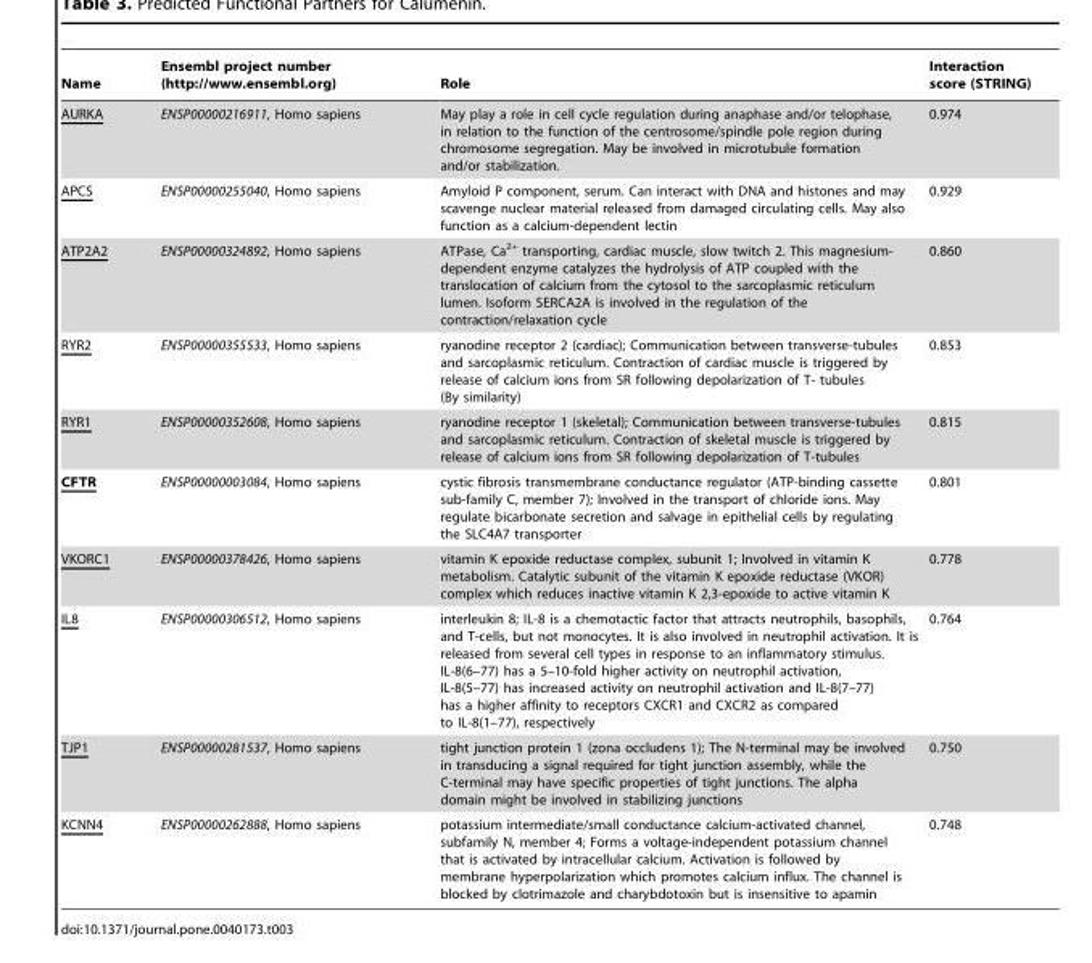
<table><thead><tr><td>Name</td><td>Ensembl project number (http://www.ensembl.org)</td><td>Role</td><td>Interaction score (STRING)</td></tr></thead><tbody><tr><td>AURKA</td><td>ENSP00000216911, Homo sapiens</td><td>May play a role in cell cycle regulation during anaphase and/or telophase, in relation to the function of the centrosome/spindle pole region during chromosome segregation. May be involved in microtubule formation and/or stabilization.</td><td>0.974</td></tr><tr><td>APCS</td><td>ENSP00000255040, Homo sapiens</td><td>Amyloid P component, serum. Can interact with DNA and histones and may scavenge nuclear material released from damaged circulating cells. May also function as a calcium-dependent lectin</td><td>0.929</td></tr><tr><td>ATP2A2</td><td>ENSP00000324892, Homo sapiens</td><td>ATPase, Ca<sup>2+</sup> transporting, cardiac muscle, slow twitch 2. This magnesium- dependent enzyme catalyzes the hydrolysis of ATP coupled with the translocation of calcium from the cytosol to the sarcoplasmic reticulum lumen. Isoform SERCA2A is involved in the regulation of the contraction/relaxation cycle</td><td>0.860</td></tr><tr><td>RYR2</td><td>ENSP00000355533, Homo sapiens</td><td>ryanodine receptor 2 (cardiac); Communication between transverse-tubules and sarcoplasmic reticulum. Contraction of cardiac muscle is triggered by release of calcium ions from SR following depolarization of T- tubules (By similarity)</td><td>0.853</td></tr><tr><td>RYR1</td><td>ENSP00000352608, Homo sapiens</td><td>ryanodine receptor 1 (skeletal); Communication between transverse-tubules and sarcoplasmic reticulum. Contraction of skeletal muscle is triggered by release of calcium ions from SR following depolarization of T-tubules</td><td>0.815</td></tr><tr><td>CFTR</td><td>ENSP00000003084, Homo sapiens</td><td>cystic fibrosis transmembrane conductance regulator (ATP-binding cassette sub-family C, member 7); Involved in the transport of chloride ions. May regulate bicarbonate secretion and salvage in epithelial cells by regulating the SLC4A7 transporter</td><td>0.801</td></tr><tr><td>VKORC1</td><td>ENSP00000378426, Homo sapiens</td><td>vitamin K epoxide reductase complex, subunit 1; Involved in vitamin K metabolism. Catalytic subunit of the vitamin K epoxide reductase (VKOR) complex which reduces inactive vitamin K 2,3-epoxide to active vitamin K</td><td>0.778</td></tr><tr><td>IL8</td><td>ENSP00000306512, Homo sapiens</td><td>interleukin 8; IL-8 is a chemotactic factor that attracts neutrophils, basophils, and T-cells, but not monocytes. It is also involved in neutrophil activation. It is released from several cell types in response to an inflammatory stimulus. IL-8(6–77) has a 5–10-fold higher activity on neutrophil activation, IL-8(5–77) has increased activity on neutrophil activation and IL-8(7–77) has a higher affinity to receptors CXCR1 and CXCR2 as compared to IL-8(1–77), respectively</td><td>0.764</td></tr><tr><td>TJP1</td><td>ENSP00000281537, Homo sapiens</td><td>tight junction protein 1 (zona occludens 1); The N-terminal may be involved in transducing a signal required for tight junction assembly, while the C-terminal may have specific properties of tight junctions. The alpha domain might be involved in stabilizing junctions</td><td>0.750</td></tr><tr><td>KCNN4</td><td>ENSP00000262888, Homo sapiens</td><td>potassium intermediate/small conductance calcium-activated channel, subfamily N, member 4; Forms a voltage-independent potassium channel that is activated by intracellular calcium. Activation is followed by membrane hyperpolarization which promotes calcium influx. The channel is blocked by clotrimazole and charybdotoxin but is insensitive to apamin</td><td>0.748</td></tr></tbody></table>